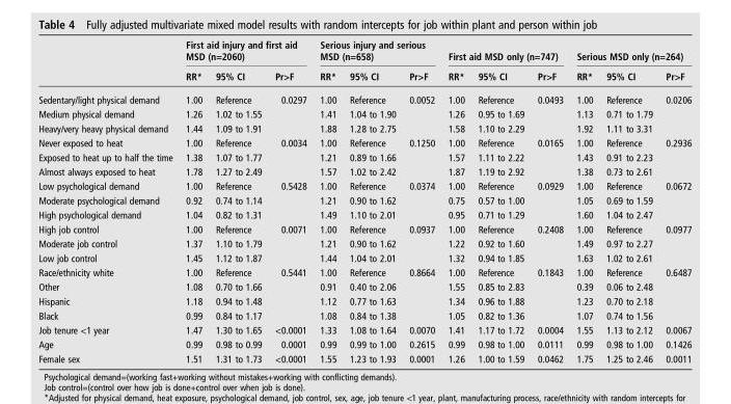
<table><thead><tr><td rowspan="2"></td><td colspan="3">First aid injury and first aid MSD (n=2060)</td><td colspan="3">Serious injury and serious MSD (n=658)</td><td colspan="3">First aid MSD only (n=747)</td><td colspan="3">Serious MSD only (n=264)</td></tr><tr><td>RR*</td><td>95% CI</td><td>Pr&gt;F</td><td>RR*</td><td>95% CI</td><td>Pr&gt;F</td><td>RR*</td><td>95% CI</td><td>Pr&gt;F</td><td>RR*</td><td>95% CI</td><td>Pr&gt;F</td></tr></thead><tbody><tr><td>Sedentary/light physical demand</td><td>1.00</td><td>Reference</td><td rowspan="3">0.0297</td><td>1.00</td><td>Reference</td><td rowspan="3">0.0052</td><td>1.00</td><td>Reference</td><td rowspan="3">0.0493</td><td>1.00</td><td>Reference</td><td rowspan="3">0.0206</td></tr><tr><td>Medium physical demand</td><td>1.26</td><td>1.02 to 1.55</td><td>1.41</td><td>1.04 to 1.90</td><td>1.26</td><td>0.95 to 1.69</td><td>1.13</td><td>0.71 to 1.79</td></tr><tr><td>Heavy/very heavy physical demand</td><td>1.44</td><td>1.09 to 1.91</td><td>1.88</td><td>1.28 to 2.75</td><td>1.58</td><td>1.10 to 2.29</td><td>1.92</td><td>1.11 to 3.31</td></tr><tr><td>Never exposed to heat</td><td>1.00</td><td>Reference</td><td rowspan="3">0.0034</td><td>1.00</td><td>Reference</td><td rowspan="3">0.1250</td><td>1.00</td><td>Reference</td><td rowspan="3">0.0165</td><td>1.00</td><td>Reference</td><td rowspan="3">0.2936</td></tr><tr><td>Exposed to heat up to half the time</td><td>1.38</td><td>1.07 to 1.77</td><td>1.21</td><td>0.89 to 1.66</td><td>1.57</td><td>1.11 to 2.22</td><td>1.43</td><td>0.91 to 2.23</td></tr><tr><td>Almost always exposed to heat</td><td>1.78</td><td>1.27 to 2.49</td><td>1.57</td><td>1.02 to 2.42</td><td>1.87</td><td>1.19 to 2.92</td><td>1.38</td><td>0.73 to 2.61</td></tr><tr><td>Low psychological demand</td><td>1.00</td><td>Reference</td><td rowspan="3">0.5428</td><td>1.00</td><td>Reference</td><td rowspan="3">0.0374</td><td>1.00</td><td>Reference</td><td rowspan="3">0.0929</td><td>1.00</td><td>Reference</td><td rowspan="3">0.0672</td></tr><tr><td>Moderate psychological demand</td><td>0.92</td><td>0.74 to 1.14</td><td>1.21</td><td>0.90 to 1.62</td><td>0.75</td><td>0.57 to 1.00</td><td>1.05</td><td>0.69 to 1.59</td></tr><tr><td>High psychological demand</td><td>1.04</td><td>0.82 to 1.31</td><td>1.49</td><td>1.10 to 2.01</td><td>0.95</td><td>0.71 to 1.29</td><td>1.60</td><td>1.04 to 2.47</td></tr><tr><td>High job control</td><td>1.00</td><td>Reference</td><td rowspan="3">0.0071</td><td>1.00</td><td>Reference</td><td rowspan="3">0.0937</td><td>1.00</td><td>Reference</td><td rowspan="3">0.2408</td><td>1.00</td><td>Reference</td><td rowspan="3">0.0977</td></tr><tr><td>Moderate job control</td><td>1.37</td><td>1.10 to 1.79</td><td>1.21</td><td>0.90 to 1.62</td><td>1.22</td><td>0.92 to 1.60</td><td>1.49</td><td>0.97 to 2.27</td></tr><tr><td>Low job control</td><td>1.45</td><td>1.12 to 1.87</td><td>1.44</td><td>1.04 to 2.01</td><td>1.32</td><td>0.94 to 1.85</td><td>1.63</td><td>1.02 to 2.61</td></tr><tr><td>Race/ethnicity white</td><td>1.00</td><td>Reference</td><td rowspan="4">0.5441</td><td>1.00</td><td>Reference</td><td rowspan="4">0.8664</td><td>1.00</td><td>Reference</td><td rowspan="4">0.1843</td><td>1.00</td><td>Reference</td><td rowspan="4">0.6487</td></tr><tr><td>Other</td><td>1.08</td><td>0.70 to 1.66</td><td>0.91</td><td>0.40 to 2.06</td><td>1.55</td><td>0.85 to 2.83</td><td>0.39</td><td>0.06 to 2.48</td></tr><tr><td>Hispanic</td><td>1.18</td><td>0.94 to 1.48</td><td>1.12</td><td>0.77 to 1.63</td><td>1.34</td><td>0.96 to 1.88</td><td>1.23</td><td>0.70 to 2.18</td></tr><tr><td>Black</td><td>0.99</td><td>0.84 to 1.17</td><td>1.08</td><td>0.84 to 1.38</td><td>1.05</td><td>0.82 to 1.36</td><td>1.07</td><td>0.74 to 1.56</td></tr><tr><td>Job tenure &lt;1 year</td><td>1.47</td><td>1.30 to 1.65</td><td>&lt;0.0001</td><td>1.33</td><td>1.08 to 1.64</td><td>0.0070</td><td>1.41</td><td>1.17 to 1.72</td><td>0.0004</td><td>1.55</td><td>1.13 to 2.12</td><td>0.0067</td></tr><tr><td>Age</td><td>0.99</td><td>0.98 to 0.99</td><td>0.0001</td><td>0.99</td><td>0.99 to 1.00</td><td>0.2615</td><td>0.99</td><td>0.98 to 1.00</td><td>0.0111</td><td>0.99</td><td>0.98 to 1.00</td><td>0.1426</td></tr><tr><td>Female sex</td><td>1.51</td><td>1.31 to 1.73</td><td>&lt;0.0001</td><td>1.55</td><td>1.23 to 1.93</td><td>0.0001</td><td>1.26</td><td>1.00 to 1.59</td><td>0.0462</td><td>1.75</td><td>1.25 to 2.46</td><td>0.0011</td></tr></tbody></table>